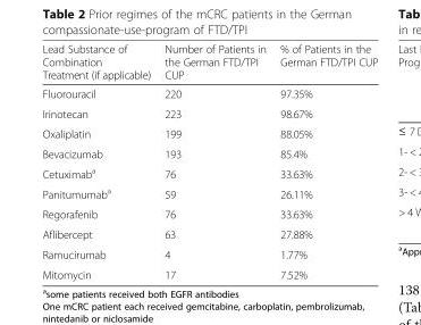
<table><thead><tr><td>Lead Substance of Combination Treatment (if applicable)</td><td>Number of Patients in the German FTD/TPI CUP</td><td>% of Patients in the German FTD/TPI CUP</td></tr></thead><tbody><tr><td>Fluorouracil</td><td>220</td><td>97.35%</td></tr><tr><td>Irinotecan</td><td>223</td><td>98.67%</td></tr><tr><td>Oxaliplatin</td><td>199</td><td>88.05%</td></tr><tr><td>Bevacizumab</td><td>193</td><td>85.4%</td></tr><tr><td>Cetuximab<sup>a</sup></td><td>76</td><td>33.63%</td></tr><tr><td>Panitumumab<sup>a</sup></td><td>59</td><td>26.11%</td></tr><tr><td>Regorafenib</td><td>76</td><td>33.63%</td></tr><tr><td>Aflibercept</td><td>63</td><td>27.88%</td></tr><tr><td>Ramucirumab</td><td>4</td><td>1.77%</td></tr><tr><td>Mitomycin</td><td>17</td><td>7.52%</td></tr></tbody></table>